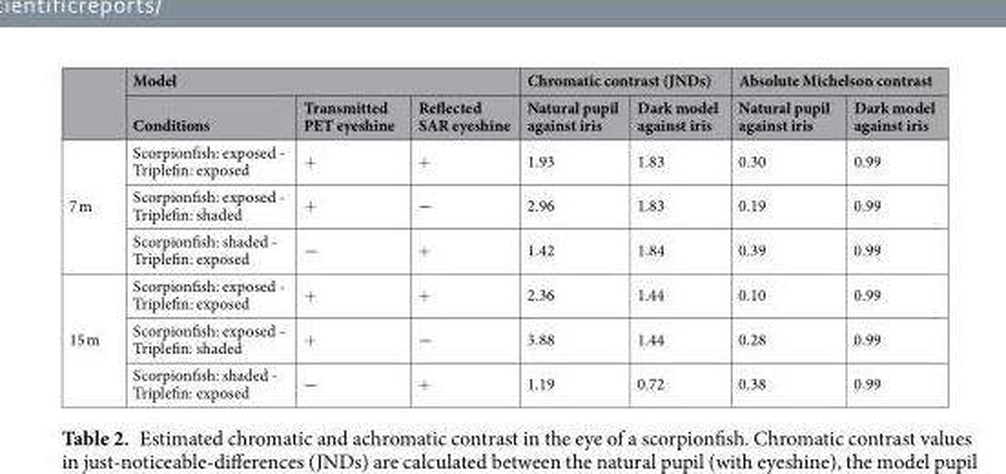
<table><thead><tr><td rowspan="2"></td><td colspan="3">Model</td><td colspan="2">Chromatic contrast (JNDs)</td><td colspan="2">Absolute Michelson contrast</td></tr><tr><td>Conditions</td><td>Transmitted PET eyeshine</td><td>Reflected SAR eyeshine</td><td>Natural pupil against iris</td><td>Dark model against iris</td><td>Natural pupil against iris</td><td>Dark model against iris</td></tr></thead><tbody><tr><td rowspan="3">7 m</td><td>Scorpionfish: exposed - Triplefin: exposed</td><td>+</td><td>+</td><td>1.93</td><td>1.83</td><td>0.30</td><td>0.99</td></tr><tr><td>Scorpionfish: exposed - Triplefin: shaded</td><td>+</td><td>−</td><td>2.96</td><td>1.83</td><td>0.19</td><td>0.99</td></tr><tr><td>Scorpionfish: shaded - Triplefin: exposed</td><td>−</td><td>+</td><td>1.42</td><td>1.84</td><td>0.39</td><td>0.99</td></tr><tr><td rowspan="3">15 m</td><td>Scorpionfish: exposed - Triplefin: exposed</td><td>+</td><td>+</td><td>2.36</td><td>1.44</td><td>0.10</td><td>0.99</td></tr><tr><td>Scorpionfish: exposed - Triplefin: shaded</td><td>+</td><td>−</td><td>3.88</td><td>1.44</td><td>0.28</td><td>0.99</td></tr><tr><td>Scorpionfish: shaded - Triplefin: exposed</td><td>−</td><td>+</td><td>1.19</td><td>0.72</td><td>0.38</td><td>0.99</td></tr></tbody></table>